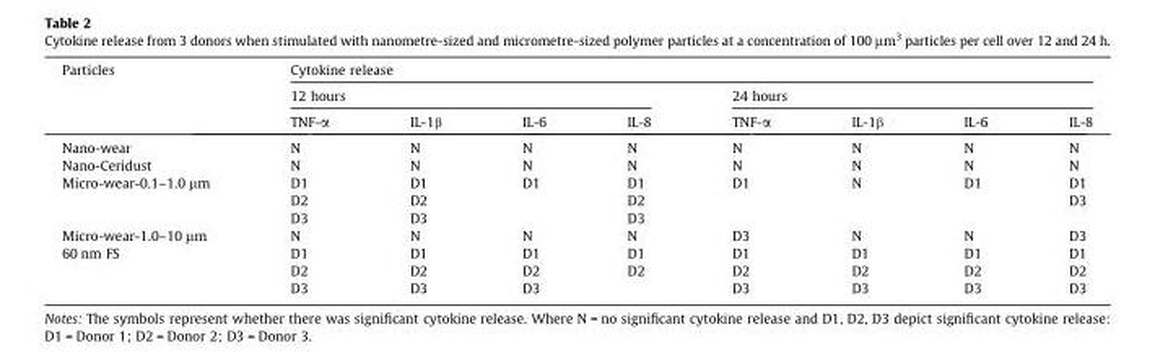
<table><thead><tr><td rowspan="3">Particles</td><td colspan="8">Cytokine release</td></tr><tr><td colspan="4">12 hours</td><td colspan="4">24 hours</td></tr><tr><td>TNF-α</td><td>IL-1β</td><td>IL-6</td><td>IL-8</td><td>TNF-α</td><td>IL-1β</td><td>IL-6</td><td>IL-8</td></tr></thead><tbody><tr><td>Nano-wear</td><td>N</td><td>N</td><td>N</td><td>N</td><td>N</td><td>N</td><td>N</td><td>N</td></tr><tr><td>Nano-Ceridust</td><td>N</td><td>N</td><td>N</td><td>N</td><td>N</td><td>N</td><td>N</td><td>N</td></tr><tr><td>Micro-wear-0.1–1.0 μm</td><td>D1 D2 D3</td><td>D1 D2 D3</td><td>D1</td><td>D1 D2 D3</td><td>D1</td><td>N</td><td>D1</td><td>D1 D3</td></tr><tr><td>Micro-wear-1.0–10 μm</td><td>N</td><td>N</td><td>N</td><td>N</td><td>D3</td><td>N</td><td>N</td><td>D3</td></tr><tr><td>60 nm FS</td><td>D1 D2 D3</td><td>D1 D2 D3</td><td>D1 D2 D3</td><td>D1 D2</td><td>D1 D2 D3</td><td>D1 D2 D3</td><td>D1 D2 D3</td><td>D1 D2 D3</td></tr></tbody></table>